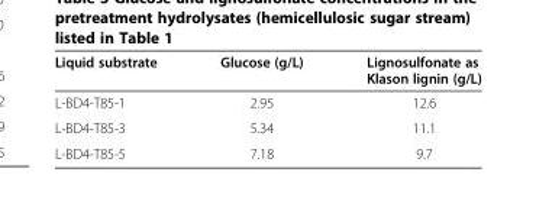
<table><thead><tr><td>Liquid substrate</td><td>Glucose (g/L)</td><td>Lignosulfonate as Klason lignin (g/L)</td></tr></thead><tbody><tr><td>L-BD4-T85-1</td><td>2.95</td><td>12.6</td></tr><tr><td>L-BD4-T85-3</td><td>5.34</td><td>11.1</td></tr><tr><td>L-BD4-T85-5</td><td>7.18</td><td>9.7</td></tr></tbody></table>